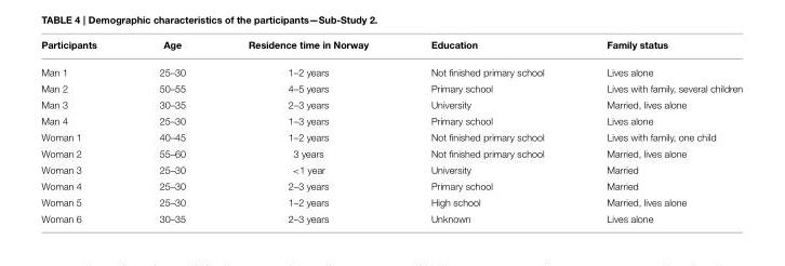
<table><thead><tr><td>Participants</td><td>Age</td><td>Residence time in Norway</td><td>Education</td><td>Family status</td></tr></thead><tbody><tr><td>Man 1</td><td>25–30</td><td>1–2 years</td><td>Not finished primary school</td><td>Lives alone</td></tr><tr><td>Man 2</td><td>50–55</td><td>4–5 years</td><td>Primary school</td><td>Lives with family, several children</td></tr><tr><td>Man 3</td><td>30–35</td><td>2–3 years</td><td>University</td><td>Married, lives alone</td></tr><tr><td>Man 4</td><td>25–30</td><td>1–3 years</td><td>Primary school</td><td>Lives alone</td></tr><tr><td>Woman 1</td><td>40–45</td><td>1–2 years</td><td>Not finished primary school</td><td>Lives with family, one child</td></tr><tr><td>Woman 2</td><td>55–60</td><td>3 years</td><td>Not finished primary school</td><td>Married, lives alone</td></tr><tr><td>Woman 3</td><td>25–30</td><td>&lt;1 year</td><td>University</td><td>Married</td></tr><tr><td>Woman 4</td><td>25–30</td><td>2–3 years</td><td>Primary school</td><td>Married</td></tr><tr><td>Woman 5</td><td>25–30</td><td>1–2 years</td><td>High school</td><td>Married, lives alone</td></tr><tr><td>Woman 6</td><td>30–35</td><td>2–3 years</td><td>Unknown</td><td>Lives alone</td></tr></tbody></table>